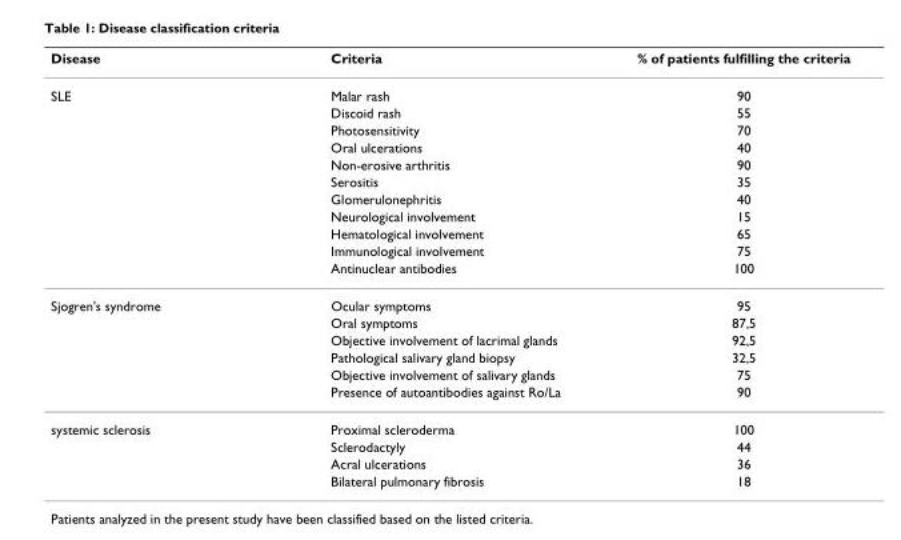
<table><thead><tr><td>Disease</td><td>Criteria</td><td>% of patients fulfilling the criteria</td></tr></thead><tbody><tr><td rowspan="11">SLE</td><td>Malar rash</td><td>90</td></tr><tr><td>Discoid rash</td><td>55</td></tr><tr><td>Photosensitivity</td><td>70</td></tr><tr><td>Oral ulcerations</td><td>40</td></tr><tr><td>Non-erosive arthritis</td><td>90</td></tr><tr><td>Serositis</td><td>35</td></tr><tr><td>Glomerulonephritis</td><td>40</td></tr><tr><td>Neurological involvement</td><td>15</td></tr><tr><td>Hematological involvement</td><td>65</td></tr><tr><td>Immunological involvement</td><td>75</td></tr><tr><td>Antinuclear antibodies</td><td>100</td></tr><tr><td rowspan="6">Sjogren&#x27;s syndrome</td><td>Ocular symptoms</td><td>95</td></tr><tr><td>Oral symptoms</td><td>87,5</td></tr><tr><td>Objective involvement of lacrimal glands</td><td>92,5</td></tr><tr><td>Pathological salivary gland biopsy</td><td>32,5</td></tr><tr><td>Objective involvement of salivary glands</td><td>75</td></tr><tr><td>Presence of autoantibodies against Ro/La</td><td>90</td></tr><tr><td rowspan="4">systemic sclerosis</td><td>Proximal scleroderma</td><td>100</td></tr><tr><td>Sclerodactyly</td><td>44</td></tr><tr><td>Acral ulcerations</td><td>36</td></tr><tr><td>Bilateral pulmonary fibrosis</td><td>18</td></tr></tbody></table>